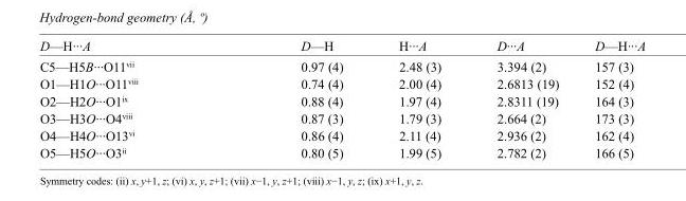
<table><tbody><tr><td>D—H···A</td><td>D—H</td><td>H···A</td><td>D···A</td><td>D—H···A</td></tr><tr><td>C5—H5B···O11<sup>vii</sup></td><td>0.97 (4)</td><td>2.48 (3)</td><td>3.394 (2)</td><td>157 (3)</td></tr><tr><td>O1—H1O···O11<sup>viii</sup></td><td>0.74 (4)</td><td>2.00 (4)</td><td>2.6813 (19)</td><td>152 (4)</td></tr><tr><td>O2—H2O···O1<sup>ix</sup></td><td>0.88 (4)</td><td>1.97 (4)</td><td>2.8311 (19)</td><td>164 (3)</td></tr><tr><td>O3—H3O···O4<sup>viii</sup></td><td>0.87 (3)</td><td>1.79 (3)</td><td>2.664 (2)</td><td>173 (3)</td></tr><tr><td>O4—H4O···O13<sup>vi</sup></td><td>0.86 (4)</td><td>2.11 (4)</td><td>2.936 (2)</td><td>162 (4)</td></tr><tr><td>O5—H5O···O3<sup>ii</sup></td><td>0.80 (5)</td><td>1.99 (5)</td><td>2.782 (2)</td><td>166 (5)</td></tr></tbody></table>